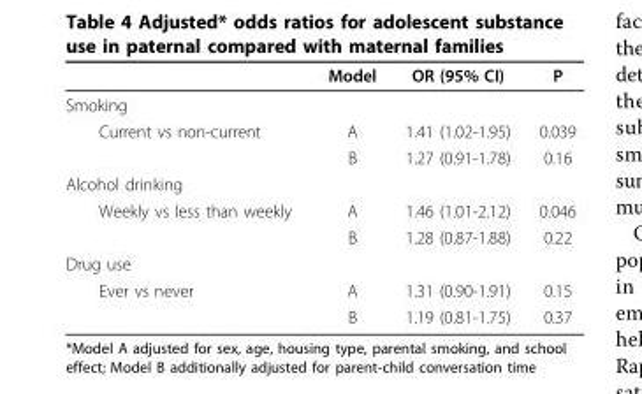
<table><thead><tr><td></td><td>Model</td><td>OR (95% CI)</td><td>P</td></tr></thead><tbody><tr><td colspan="4">Smoking</td></tr><tr><td rowspan="2">Current vs non-current</td><td>A</td><td>1.41 (1.02-1.95)</td><td>0.039</td></tr><tr><td>B</td><td>1.27 (0.91-1.78)</td><td>0.16</td></tr><tr><td colspan="4">Alcohol drinking</td></tr><tr><td rowspan="2">Weekly vs less than weekly</td><td>A</td><td>1.46 (1.01-2.12)</td><td>0.046</td></tr><tr><td>B</td><td>1.28 (0.87-1.88)</td><td>0.22</td></tr><tr><td colspan="4">Drug use</td></tr><tr><td rowspan="2">Ever vs never</td><td>A</td><td>1.31 (0.90-1.91)</td><td>0.15</td></tr><tr><td>B</td><td>1.19 (0.81-1.75)</td><td>0.37</td></tr></tbody></table>